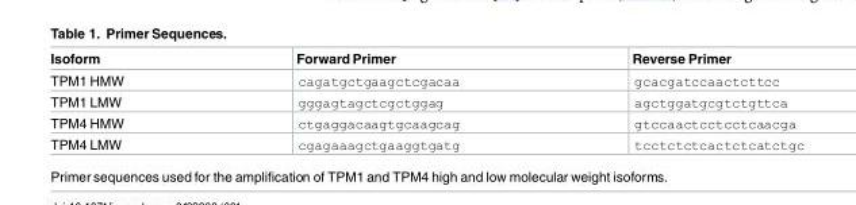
<table><thead><tr><td>Isoform</td><td>Forward Primer</td><td>Reverse Primer</td></tr></thead><tbody><tr><td>TPM1 HMW</td><td>cagatgctgaagctcgacaa</td><td>gcacgatccaactcttcc</td></tr><tr><td>TPM1 LMW</td><td>gggagtagctcgctggag</td><td>agctggatgcgtctgttca</td></tr><tr><td>TPM4 HMW</td><td>ctgaggacaagtgcaagcag</td><td>gtccaactcctcctcaacga</td></tr><tr><td>TPM4 LMW</td><td>cgagaaagctgaaggtgatg</td><td>tcctctctcactctcatctgc</td></tr></tbody></table>